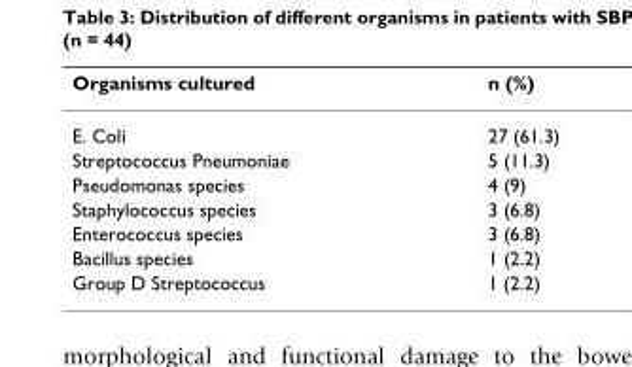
<table><thead><tr><td>Organisms cultured</td><td>n (%)</td></tr></thead><tbody><tr><td>E. Coli</td><td>27 (61.3)</td></tr><tr><td>Streptococcus Pneumoniae</td><td>5 (11.3)</td></tr><tr><td>Pseudomonas species</td><td>4 (9)</td></tr><tr><td>Staphylococcus species</td><td>3 (6.8)</td></tr><tr><td>Enterococcus species</td><td>3 (6.8)</td></tr><tr><td>Bacillus species</td><td>1 (2.2)</td></tr><tr><td>Group D Streptococcus</td><td>1 (2.2)</td></tr></tbody></table>